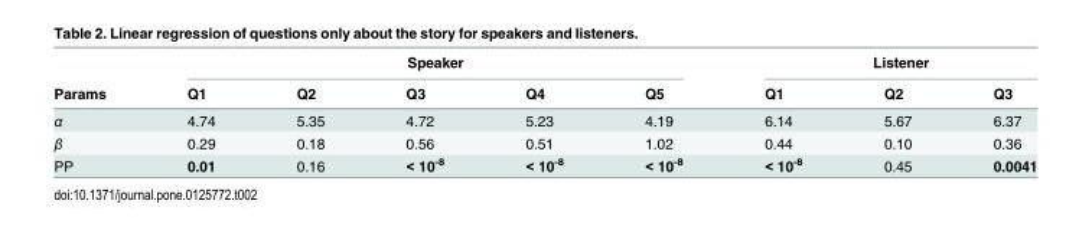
<table><thead><tr><td rowspan="2">Params</td><td colspan="5">Speaker</td><td colspan="3">Listener</td></tr><tr><td>Q1</td><td>Q2</td><td>Q3</td><td>Q4</td><td>Q5</td><td>Q1</td><td>Q2</td><td>Q3</td></tr></thead><tbody><tr><td>α</td><td>4.74</td><td>5.35</td><td>4.72</td><td>5.23</td><td>4.19</td><td>6.14</td><td>5.67</td><td>6.37</td></tr><tr><td>β</td><td>0.29</td><td>0.18</td><td>0.56</td><td>0.51</td><td>1.02</td><td>0.44</td><td>0.10</td><td>0.36</td></tr><tr><td>PP</td><td>0.01</td><td>0.16</td><td>&lt; 10<sup>-8</sup></td><td>&lt; 10<sup>-8</sup></td><td>&lt; 10<sup>-8</sup></td><td>&lt; 10<sup>-8</sup></td><td>0.45</td><td>0.0041</td></tr></tbody></table>